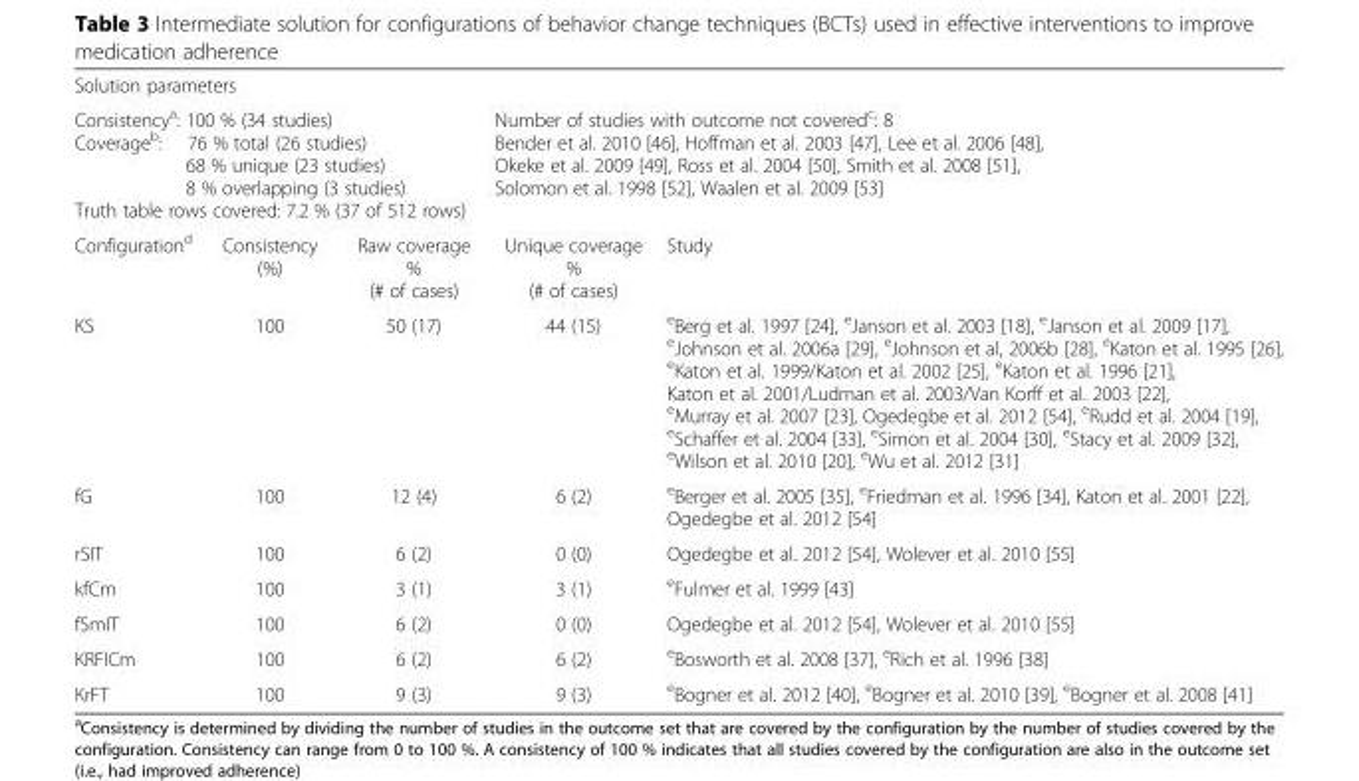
<table><tbody><tr><td colspan="5">Solution parameters</td></tr><tr><td colspan="3">Consistency<sup>a</sup>: 100 % (34 studies) Coverage<sup>b</sup>: 76 % total (26 studies) 68 % unique (23 studies) 8 % overlapping (3 studies) Truth table rows covered: 7.2 % (37 of 512 rows)</td><td colspan="2">Number of studies with outcome not covered<sup>c</sup>: 8 Bender et al. 2010 [46], Hoffman et al. 2003 [47], Lee et al. 2006 [48], Okeke et al. 2009 [49], Ross et al. 2004 [50], Smith et al. 2008 [51], Solomon et al. 1998 [52], Waalen et al. 2009 [53]</td></tr><tr><td>Configuration<sup>d</sup></td><td>Consistency (%)</td><td>Raw coverage % (# of cases)</td><td>Unique coverage % (# of cases)</td><td>Study</td></tr><tr><td>KS</td><td>100</td><td>50 (17)</td><td>44 (15)</td><td><sup>e</sup>Berg et al. 1997 [24], <sup>e</sup>Janson et al. 2003 [18], <sup>e</sup>Janson et al. 2009 [17], <sup>e</sup>Johnson et al. 2006a [29], <sup>e</sup>Johnson et al, 2006b [28], <sup>e</sup>Katon et al. 1995 [26], <sup>e</sup>Katon et al. 1999/Katon et al. 2002 [25], <sup>e</sup>Katon et al. 1996 [21], Katon et al. 2001/Ludman et al. 2003/Van Korff et al. 2003 [22], <sup>e</sup>Murray et al. 2007 [23], Ogedegbe et al. 2012 [54], <sup>e</sup>Rudd et al. 2004 [19], <sup>e</sup>Schaffer et al. 2004 [33], <sup>e</sup>Simon et al. 2004 [30], <sup>e</sup>Stacy et al. 2009 [32], <sup>e</sup>Wilson et al. 2010 [20], <sup>e</sup>Wu et al. 2012 [31]</td></tr><tr><td>fG</td><td>100</td><td>12 (4)</td><td>6 (2)</td><td><sup>e</sup>Berger et al. 2005 [35], <sup>e</sup>Friedman et al. 1996 [34], Katon et al. 2001 [22], Ogedegbe et al. 2012 [54]</td></tr><tr><td>rSIT</td><td>100</td><td>6 (2)</td><td>0 (0)</td><td>Ogedegbe et al. 2012 [54], Wolever et al. 2010 [55]</td></tr><tr><td>kfCm</td><td>100</td><td>3 (1)</td><td>3 (1)</td><td><sup>e</sup>Fulmer et al. 1999 [43]</td></tr><tr><td>fSmIT</td><td>100</td><td>6 (2)</td><td>0 (0)</td><td>Ogedegbe et al. 2012 [54], Wolever et al. 2010 [55]</td></tr><tr><td>KRFICm</td><td>100</td><td>6 (2)</td><td>6 (2)</td><td><sup>e</sup>Bosworth et al. 2008 [37], <sup>e</sup>Rich et al. 1996 [38]</td></tr><tr><td>KrFT</td><td>100</td><td>9 (3)</td><td>9 (3)</td><td><sup>e</sup>Bogner et al. 2012 [40], <sup>e</sup>Bogner et al. 2010 [39], <sup>e</sup>Bogner et al. 2008 [41]</td></tr></tbody></table>